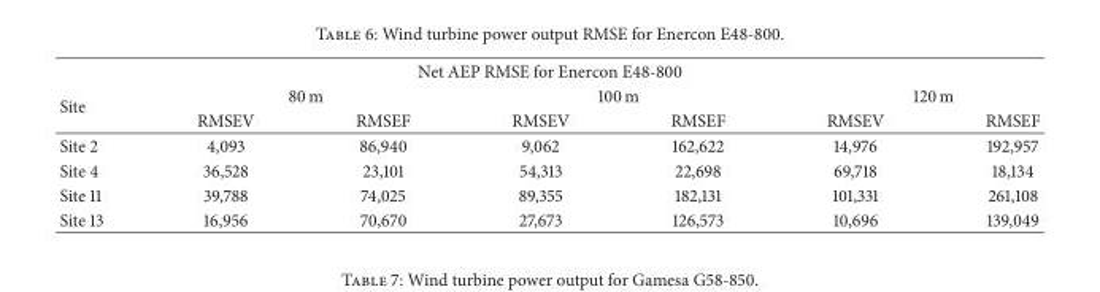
<table><thead><tr><td colspan="7">Net AEP RMSE for Enercon E48-800</td></tr><tr><td rowspan="2">Site</td><td colspan="2">80 m</td><td colspan="2">100 m</td><td colspan="2">120 m</td></tr><tr><td>RMSEV</td><td>RMSEF</td><td>RMSEV</td><td>RMSEF</td><td>RMSEV</td><td>RMSEF</td></tr></thead><tbody><tr><td>Site 2</td><td>4,093</td><td>86,940</td><td>9,062</td><td>162,622</td><td>14,976</td><td>192,957</td></tr><tr><td>Site 4</td><td>36,528</td><td>23,101</td><td>54,313</td><td>22,698</td><td>69,718</td><td>18,134</td></tr><tr><td>Site 11</td><td>39,788</td><td>74,025</td><td>89,355</td><td>182,131</td><td>101,331</td><td>261,108</td></tr><tr><td>Site 13</td><td>16,956</td><td>70,670</td><td>27,673</td><td>126,573</td><td>10,696</td><td>139,049</td></tr></tbody></table>